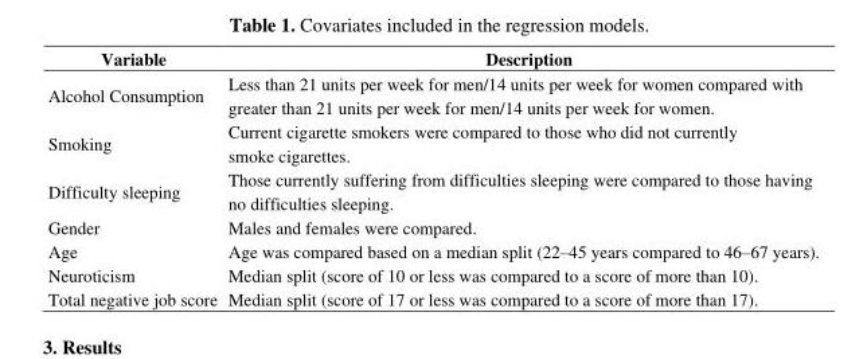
<table><thead><tr><td>Variable</td><td>Description</td></tr></thead><tbody><tr><td>Alcohol Consumption</td><td>Less than 21 units per week for men/14 units per week for women compared with greater than 21 units per week for men/14 units per week for women.</td></tr><tr><td>Smoking</td><td>Current cigarette smokers were compared to those who did not currently smoke cigarettes.</td></tr><tr><td>Difficulty sleeping</td><td>Those currently suffering from difficulties sleeping were compared to those having no difficulties sleeping.</td></tr><tr><td>Gender</td><td>Males and females were compared.</td></tr><tr><td>Age</td><td>Age was compared based on a median split (22–45 years compared to 46–67 years).</td></tr><tr><td>Neuroticism</td><td>Median split (score of 10 or less was compared to a score of more than 10).</td></tr><tr><td>Total negative job score</td><td>Median split (score of 17 or less was compared to a score of more than 17).</td></tr></tbody></table>